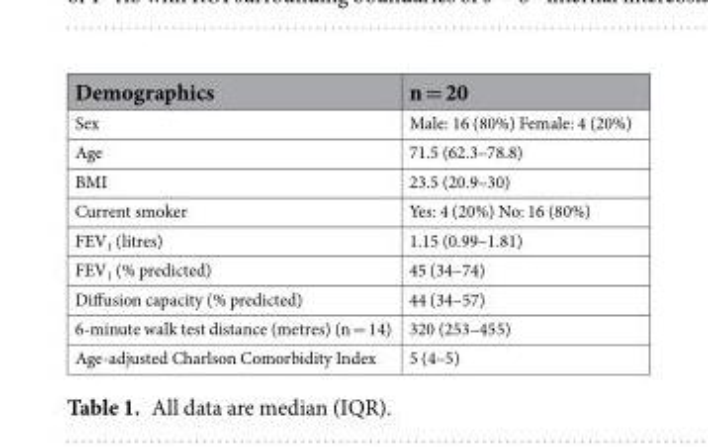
<table><thead><tr><td>Demographics</td><td>n = 20</td></tr></thead><tbody><tr><td>Sex</td><td>Male: 16 (80%) Female: 4 (20%)</td></tr><tr><td>Age</td><td>71.5 (62.3–78.8)</td></tr><tr><td>BMI</td><td>23.5 (20.9–30)</td></tr><tr><td>Current smoker</td><td>Yes: 4 (20%) No: 16 (80%)</td></tr><tr><td>FEV<sub>1</sub> (litres)</td><td>1.15 (0.99–1.81)</td></tr><tr><td>FEV<sub>1</sub> (% predicted)</td><td>45 (34–74)</td></tr><tr><td>Diffusion capacity (% predicted)</td><td>44 (34–57)</td></tr><tr><td>6-minute walk test distance (metres) (n = 14)</td><td>320 (253–455)</td></tr><tr><td>Age-adjusted Charlson Comorbidity Index</td><td>5 (4–5)</td></tr></tbody></table>